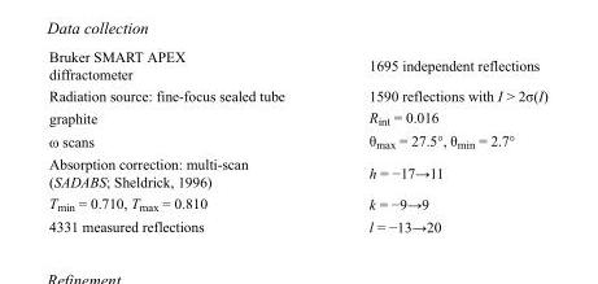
<table><tbody><tr><td>Bruker SMART APEX diffractometer</td><td>1695 independent reflections</td></tr><tr><td>Radiation source: fine-focus sealed tube</td><td>1590 reflections with I &gt; 2σ(I)</td></tr><tr><td>graphite</td><td>R<sub>int</sub> = 0.016</td></tr><tr><td>ω scans</td><td>θ<sub>max</sub> = 27.5°, θ<sub>min</sub> = 2.7°</td></tr><tr><td>Absorption correction: multi-scan (SADABS; Sheldrick, 1996)</td><td>h = −17→11</td></tr><tr><td>T<sub>min</sub> = 0.710, T<sub>max</sub> = 0.810</td><td>k = −9→9</td></tr><tr><td>4331 measured reflections</td><td>l = −13→20</td></tr></tbody></table>